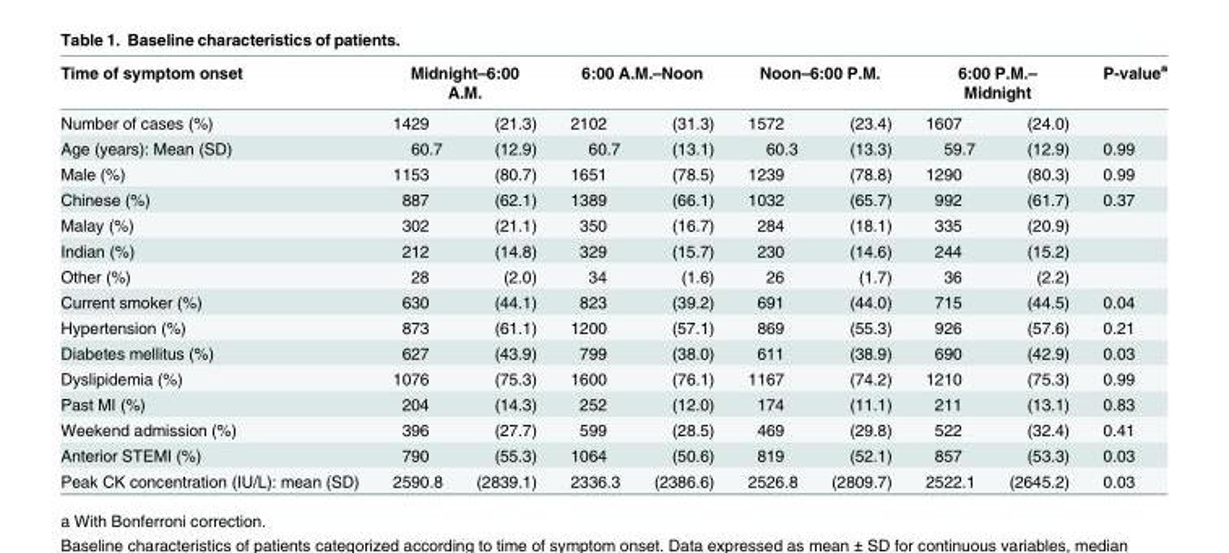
<table><thead><tr><td rowspan="2">Time of symptom onset Number of cases (%)</td><td colspan="2">Midnight–6:00 A.M.</td><td colspan="2">6:00 A.M.–Noon</td><td colspan="2">Noon–6:00 P.M.</td><td colspan="2">6:00 P.M.– Midnight</td><td rowspan="2">P-value<sup>a</sup></td></tr><tr><td>1429</td><td>(21.3)</td><td>2102</td><td>(31.3)</td><td>1572</td><td>(23.4)</td><td>1607</td><td>(24.0)</td></tr></thead><tbody><tr><td>Age (years): Mean (SD)</td><td>60.7</td><td>(12.9)</td><td>60.7</td><td>(13.1)</td><td>60.3</td><td>(13.3)</td><td>59.7</td><td>(12.9)</td><td>0.99</td></tr><tr><td>Male (%)</td><td>1153</td><td>(80.7)</td><td>1651</td><td>(78.5)</td><td>1239</td><td>(78.8)</td><td>1290</td><td>(80.3)</td><td>0.99</td></tr><tr><td>Chinese (%)</td><td>887</td><td>(62.1)</td><td>1389</td><td>(66.1)</td><td>1032</td><td>(65.7)</td><td>992</td><td>(61.7)</td><td>0.37</td></tr><tr><td>Malay (%)</td><td>302</td><td>(21.1)</td><td>350</td><td>(16.7)</td><td>284</td><td>(18.1)</td><td>335</td><td>(20.9)</td><td></td></tr><tr><td>Indian (%)</td><td>212</td><td>(14.8)</td><td>329</td><td>(15.7)</td><td>230</td><td>(14.6)</td><td>244</td><td>(15.2)</td><td></td></tr><tr><td>Other (%)</td><td>28</td><td>(2.0)</td><td>34</td><td>(1.6)</td><td>26</td><td>(1.7)</td><td>36</td><td>(2.2)</td><td></td></tr><tr><td>Current smoker (%)</td><td>630</td><td>(44.1)</td><td>823</td><td>(39.2)</td><td>691</td><td>(44.0)</td><td>715</td><td>(44.5)</td><td>0.04</td></tr><tr><td>Hypertension (%)</td><td>873</td><td>(61.1)</td><td>1200</td><td>(57.1)</td><td>869</td><td>(55.3)</td><td>926</td><td>(57.6)</td><td>0.21</td></tr><tr><td>Diabetes mellitus (%)</td><td>627</td><td>(43.9)</td><td>799</td><td>(38.0)</td><td>611</td><td>(38.9)</td><td>690</td><td>(42.9)</td><td>0.03</td></tr><tr><td>Dyslipidemia (%)</td><td>1076</td><td>(75.3)</td><td>1600</td><td>(76.1)</td><td>1167</td><td>(74.2)</td><td>1210</td><td>(75.3)</td><td>0.99</td></tr><tr><td>Past MI (%)</td><td>204</td><td>(14.3)</td><td>252</td><td>(12.0)</td><td>174</td><td>(11.1)</td><td>211</td><td>(13.1)</td><td>0.83</td></tr><tr><td>Weekend admission (%)</td><td>396</td><td>(27.7)</td><td>599</td><td>(28.5)</td><td>469</td><td>(29.8)</td><td>522</td><td>(32.4)</td><td>0.41</td></tr><tr><td>Anterior STEMI (%)</td><td>790</td><td>(55.3)</td><td>1064</td><td>(50.6)</td><td>819</td><td>(52.1)</td><td>857</td><td>(53.3)</td><td>0.03</td></tr><tr><td>Peak CK concentration (IU/L): mean (SD)</td><td>2590.8</td><td>(2839.1)</td><td>2336.3</td><td>(2386.6)</td><td>2526.8</td><td>(2809.7)</td><td>2522.1</td><td>(2645.2)</td><td>0.03</td></tr></tbody></table>